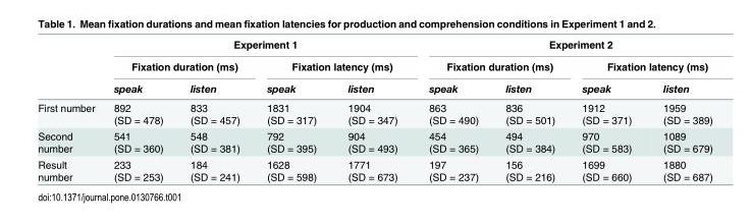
<table><thead><tr><td rowspan="3"></td><td colspan="4">Experiment 1</td><td colspan="4">Experiment 2</td></tr><tr><td colspan="2">Fixation duration (ms)</td><td colspan="2">Fixation latency (ms)</td><td colspan="2">Fixation duration (ms)</td><td colspan="2">Fixation latency (ms)</td></tr><tr><td>speak</td><td>listen</td><td>speak</td><td>listen</td><td>speak</td><td>listen</td><td>speak</td><td>listen</td></tr></thead><tbody><tr><td>First number</td><td>892 (SD = 478)</td><td>833 (SD = 457)</td><td>1831 (SD = 317)</td><td>1904 (SD = 347)</td><td>863 (SD = 490)</td><td>836 (SD = 501)</td><td>1912 (SD = 371)</td><td>1959 (SD = 389)</td></tr><tr><td>Second number</td><td>541 (SD = 360)</td><td>548 (SD = 381)</td><td>792 (SD = 395)</td><td>904 (SD = 493)</td><td>454 (SD = 365)</td><td>494 (SD = 384)</td><td>970 (SD = 583)</td><td>1089 (SD = 679)</td></tr><tr><td>Result number</td><td>233 (SD = 253)</td><td>184 (SD = 241)</td><td>1628 (SD = 598)</td><td>1771 (SD = 673)</td><td>197 (SD = 237)</td><td>156 (SD = 216)</td><td>1699 (SD = 660)</td><td>1880 (SD = 687)</td></tr></tbody></table>